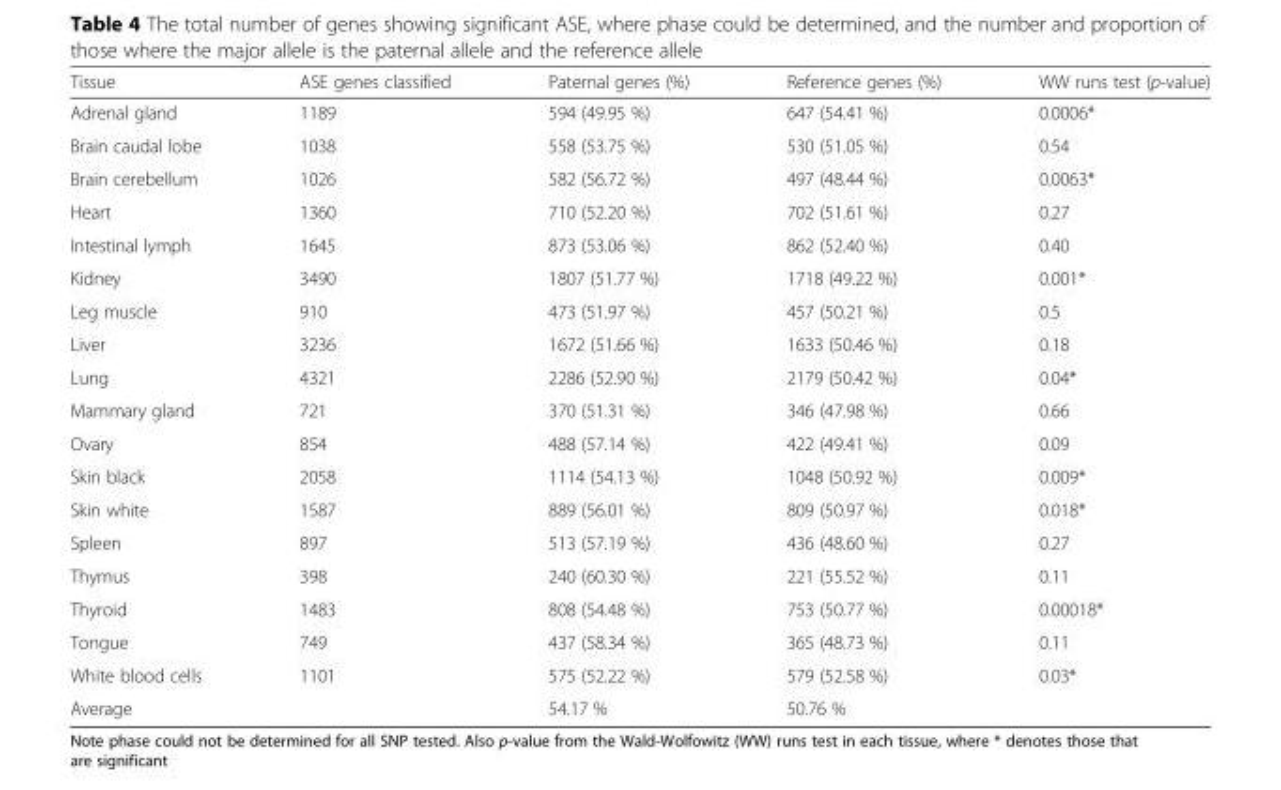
<table><thead><tr><td>Tissue</td><td>ASE genes classified</td><td>Paternal genes (%)</td><td>Reference genes (%)</td><td>WW runs test (p-value)</td></tr></thead><tbody><tr><td>Adrenal gland</td><td>1189</td><td>594 (49.95 %)</td><td>647 (54.41 %)</td><td>0.0006*</td></tr><tr><td>Brain caudal lobe</td><td>1038</td><td>558 (53.75 %)</td><td>530 (51.05 %)</td><td>0.54</td></tr><tr><td>Brain cerebellum</td><td>1026</td><td>582 (56.72 %)</td><td>497 (48.44 %)</td><td>0.0063*</td></tr><tr><td>Heart</td><td>1360</td><td>710 (52.20 %)</td><td>702 (51.61 %)</td><td>0.27</td></tr><tr><td>Intestinal lymph</td><td>1645</td><td>873 (53.06 %)</td><td>862 (52.40 %)</td><td>0.40</td></tr><tr><td>Kidney</td><td>3490</td><td>1807 (51.77 %)</td><td>1718 (49.22 %)</td><td>0.001*</td></tr><tr><td>Leg muscle</td><td>910</td><td>473 (51.97 %)</td><td>457 (50.21 %)</td><td>0.5</td></tr><tr><td>Liver</td><td>3236</td><td>1672 (51.66 %)</td><td>1633 (50.46 %)</td><td>0.18</td></tr><tr><td>Lung</td><td>4321</td><td>2286 (52.90 %)</td><td>2179 (50.42 %)</td><td>0.04*</td></tr><tr><td>Mammary gland</td><td>721</td><td>370 (51.31 %)</td><td>346 (47.98 %)</td><td>0.66</td></tr><tr><td>Ovary</td><td>854</td><td>488 (57.14 %)</td><td>422 (49.41 %)</td><td>0.09</td></tr><tr><td>Skin black</td><td>2058</td><td>1114 (54.13 %)</td><td>1048 (50.92 %)</td><td>0.009*</td></tr><tr><td>Skin white</td><td>1587</td><td>889 (56.01 %)</td><td>809 (50.97 %)</td><td>0.018*</td></tr><tr><td>Spleen</td><td>897</td><td>513 (57.19 %)</td><td>436 (48.60 %)</td><td>0.27</td></tr><tr><td>Thymus</td><td>398</td><td>240 (60.30 %)</td><td>221 (55.52 %)</td><td>0.11</td></tr><tr><td>Thyroid</td><td>1483</td><td>808 (54.48 %)</td><td>753 (50.77 %)</td><td>0.00018*</td></tr><tr><td>Tongue</td><td>749</td><td>437 (58.34 %)</td><td>365 (48.73 %)</td><td>0.11</td></tr><tr><td>White blood cells</td><td>1101</td><td>575 (52.22 %)</td><td>579 (52.58 %)</td><td>0.03*</td></tr><tr><td>Average</td><td></td><td>54.17 %</td><td>50.76 %</td><td></td></tr></tbody></table>